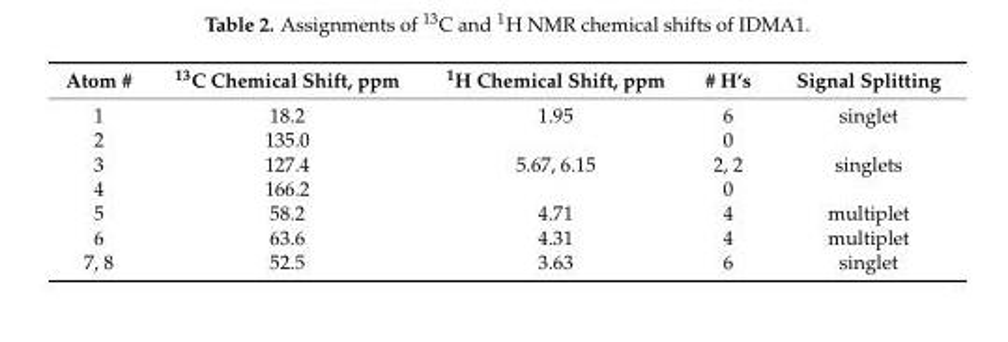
<table><thead><tr><td>Atom #</td><td><sup>13</sup>C Chemical Shift, ppm</td><td><sup>1</sup>H Chemical Shift, ppm</td><td># H‘s</td><td>Signal Splitting</td></tr></thead><tbody><tr><td>1</td><td>18.2</td><td>1.95</td><td>6</td><td>singlet</td></tr><tr><td>2</td><td>135.0</td><td></td><td>0</td><td></td></tr><tr><td>3</td><td>127.4</td><td>5.67, 6.15</td><td>2, 2</td><td>singlets</td></tr><tr><td>4</td><td>166.2</td><td></td><td>0</td><td></td></tr><tr><td>5</td><td>58.2</td><td>4.71</td><td>4</td><td>multiplet</td></tr><tr><td>6</td><td>63.6</td><td>4.31</td><td>4</td><td>multiplet</td></tr><tr><td>7, 8</td><td>52.5</td><td>3.63</td><td>6</td><td>singlet</td></tr></tbody></table>